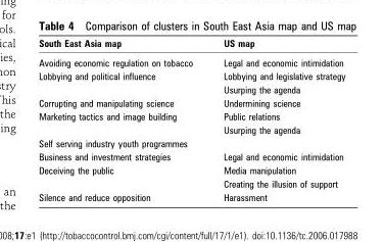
<table><thead><tr><td>South East Asia map</td><td>US map</td></tr></thead><tbody><tr><td>Avoiding economic regulation on tobacco</td><td>Legal and economic intimidation</td></tr><tr><td rowspan="2">Lobbying and political influence</td><td>Lobbying and legislative strategy</td></tr><tr><td>Usurping the agenda</td></tr><tr><td>Corrupting and manipulating science</td><td>Undermining science</td></tr><tr><td rowspan="2">Marketing tactics and image building</td><td>Public relations</td></tr><tr><td>Usurping the agenda</td></tr><tr><td colspan="2">Self serving industry youth programmes</td></tr><tr><td>Business and investment strategies</td><td>Legal and economic intimidation</td></tr><tr><td rowspan="2">Deceiving the public</td><td>Media manipulation</td></tr><tr><td>Creating the illusion of support</td></tr><tr><td>Silence and reduce opposition</td><td>Harassment</td></tr></tbody></table>